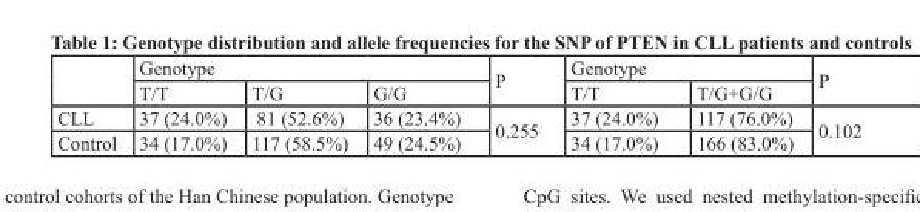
<table><thead><tr><td rowspan="2"></td><td colspan="3">Genotype</td><td rowspan="2">P</td><td colspan="2">Genotype</td><td rowspan="2">P</td></tr><tr><td>T/T</td><td>T/G</td><td>G/G</td><td>T/T</td><td>T/G+G/G</td></tr></thead><tbody><tr><td>CLL</td><td>37 (24.0%)</td><td>81 (52.6%)</td><td>36 (23.4%)</td><td rowspan="2">0.255</td><td>37 (24.0%)</td><td>117 (76.0%)</td><td rowspan="2">0.102</td></tr><tr><td>Control</td><td>34 (17.0%)</td><td>117 (58.5%)</td><td>49 (24.5%)</td><td>34 (17.0%)</td><td>166 (83.0%)</td></tr></tbody></table>